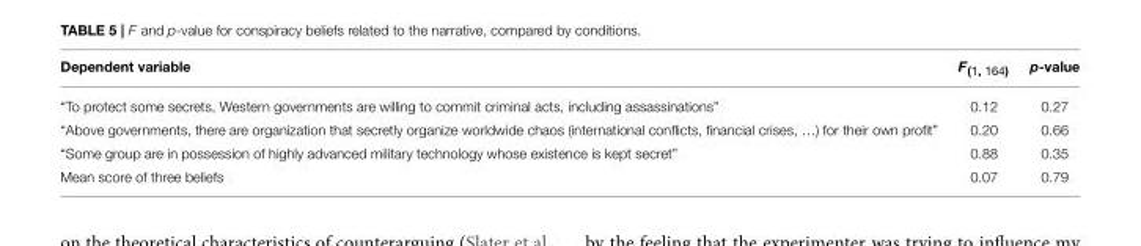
<table><thead><tr><td>Dependent variable</td><td>F<sub>(1, 164)</sub></td><td>p-value</td></tr></thead><tbody><tr><td>“To protect some secrets, Western governments are willing to commit criminal acts, including assassinations”</td><td>0.12</td><td>0.27</td></tr><tr><td>“Above governments, there are organization that secretly organize worldwide chaos (international conflicts, financial crises, …) for their own profit”</td><td>0.20</td><td>0.66</td></tr><tr><td>“Some group are in possession of highly advanced military technology whose existence is kept secret”</td><td>0.88</td><td>0.35</td></tr><tr><td>Mean score of three beliefs</td><td>0.07</td><td>0.79</td></tr></tbody></table>